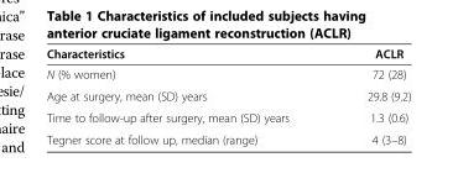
<table><thead><tr><td>Characteristics</td><td>ACLR</td></tr></thead><tbody><tr><td>N (% women)</td><td>72 (28)</td></tr><tr><td>Age at surgery, mean (SD) years</td><td>29.8 (9.2)</td></tr><tr><td>Time to follow-up after surgery, mean (SD) years</td><td>1.3 (0.6)</td></tr><tr><td>Tegner score at follow up, median (range)</td><td>4 (3–8)</td></tr></tbody></table>